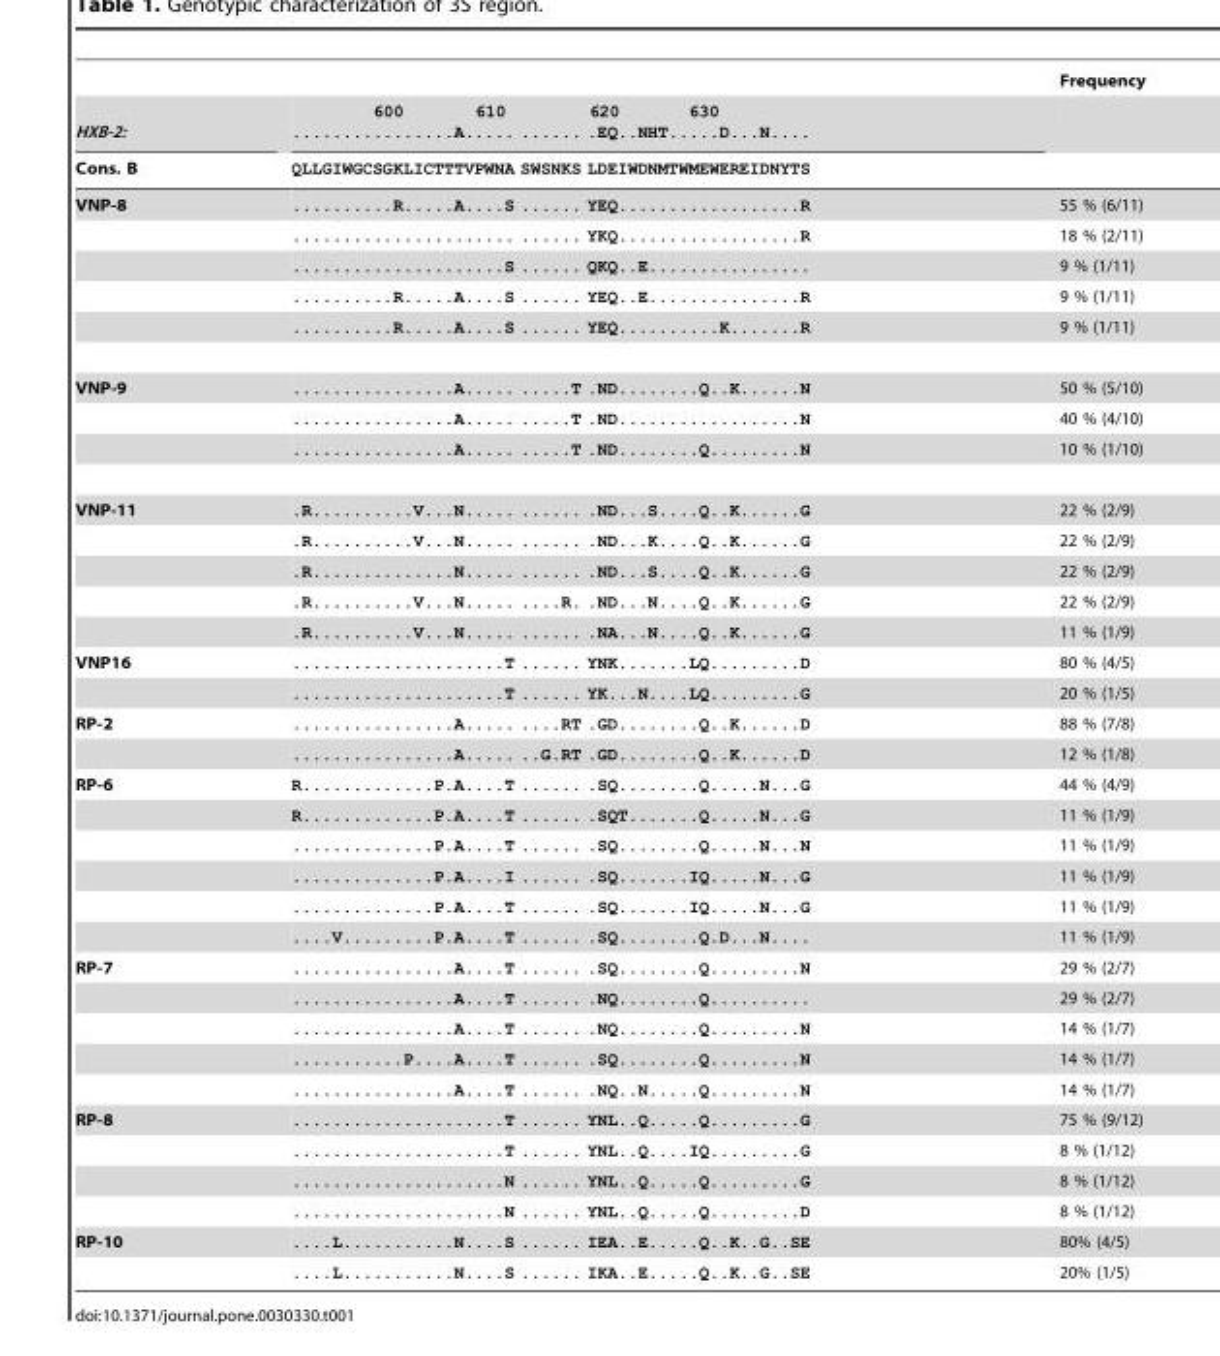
<table><thead><tr><td rowspan="3">HXB-2: Cons. B</td><td rowspan="3">600 610 620 630 ................A..... ...... .EQ..NHT.....D...N.... QLLGIWGCSGKLICTTTVPWNA SWSNKS LDEIWDNMTWMEWEREIDNYTS</td><td rowspan="3">Frequency</td></tr><tr></tr><tr></tr></thead><tbody><tr><td rowspan="5">VNP-8</td><td>..........R.....A....S ...... YEQ..................R</td><td>55 % (6/11)</td></tr><tr><td>...................... ...... YKQ..................R</td><td>18 % (2/11)</td></tr><tr><td>.....................S ...... QKQ..E................</td><td>9 % (1/11)</td></tr><tr><td>..........R.....A....S ...... YEQ..E...............R</td><td>9 % (1/11)</td></tr><tr><td>..........R.....A....S ...... YEQ..........K.......R</td><td>9 % (1/11)</td></tr><tr><td rowspan="3">VNP-9</td><td>................A..... .....T .ND........Q..K......N</td><td>50 % (5/10)</td></tr><tr><td>................A..... .....T .ND..................N</td><td>40 % (4/10)</td></tr><tr><td>................A..... .....T .ND........Q.........N</td><td>10 % (1/10)</td></tr><tr><td rowspan="5">VNP-11</td><td>.R..........V...N..... ...... .ND...S....Q..K......G</td><td>22 % (2/9)</td></tr><tr><td>.R..........V...N..... ...... .ND...K....Q..K......G</td><td>22 % (2/9)</td></tr><tr><td>.R..............N..... ...... .ND...S....Q..K......G</td><td>22 % (2/9)</td></tr><tr><td>.R..........V...N..... ....R. .ND...N....Q..K......G</td><td>22 % (2/9)</td></tr><tr><td>.R..........V...N..... ...... .NA...N....Q..K......G</td><td>11 % (1/9)</td></tr><tr><td rowspan="2">VNP16</td><td>.....................T ...... YNK.......LQ.........D</td><td>80 % (4/5)</td></tr><tr><td>.....................T ...... YK...N....LQ.........G</td><td>20 % (1/5)</td></tr><tr><td rowspan="2">RP-2</td><td>................A..... ....RT .GD........Q..K......D</td><td>88 % (7/8)</td></tr><tr><td>................A..... ..G.RT .GD........Q..K......D</td><td>12 % (1/8)</td></tr><tr><td rowspan="6">RP-6</td><td>R.............P.A....T ...... .SQ........Q.....N...G</td><td>44 % (4/9)</td></tr><tr><td>R.............P.A....T ...... .SQT.......Q.....N...G</td><td>11 % (1/9)</td></tr><tr><td>..............P.A....T ...... .SQ........Q.....N...N</td><td>11 % (1/9)</td></tr><tr><td>..............P.A....I ...... .SQ.......IQ.....N...G</td><td>11 % (1/9)</td></tr><tr><td>..............P.A....T ...... .SQ.......IQ.....N...G</td><td>11 % (1/9)</td></tr><tr><td>....V.........P.A....T ...... .SQ........Q.D...N....</td><td>11 % (1/9)</td></tr><tr><td rowspan="5">RP-7</td><td>................A....T ...... .SQ........Q.........N</td><td>29 % (2/7)</td></tr><tr><td>................A....T ...... .NQ........Q..........</td><td>29 % (2/7)</td></tr><tr><td>................A....T ...... .NQ........Q.........N</td><td>14 % (1/7)</td></tr><tr><td>...........P....A....T ...... .SQ........Q.........N</td><td>14 % (1/7)</td></tr><tr><td>................A....T ...... .NQ..N.....Q.........N</td><td>14 % (1/7)</td></tr><tr><td rowspan="4">RP-8</td><td>.....................T ...... YNL..Q.....Q.........G</td><td>75 % (9/12)</td></tr><tr><td>.....................T ...... YNL..Q....IQ.........G</td><td>8 % (1/12)</td></tr><tr><td>.....................N ...... YNL..Q.....Q.........G</td><td>8 % (1/12)</td></tr><tr><td>.....................N ...... YNL..Q.....Q.........D</td><td>8 % (1/12)</td></tr><tr><td rowspan="2">RP-10</td><td>....L...........N....S ...... IEA..E.....Q..K..G..SE</td><td>80% (4/5)</td></tr><tr><td>....L...........N....S ...... IKA..E.....Q..K..G..SE</td><td>20% (1/5)</td></tr></tbody></table>